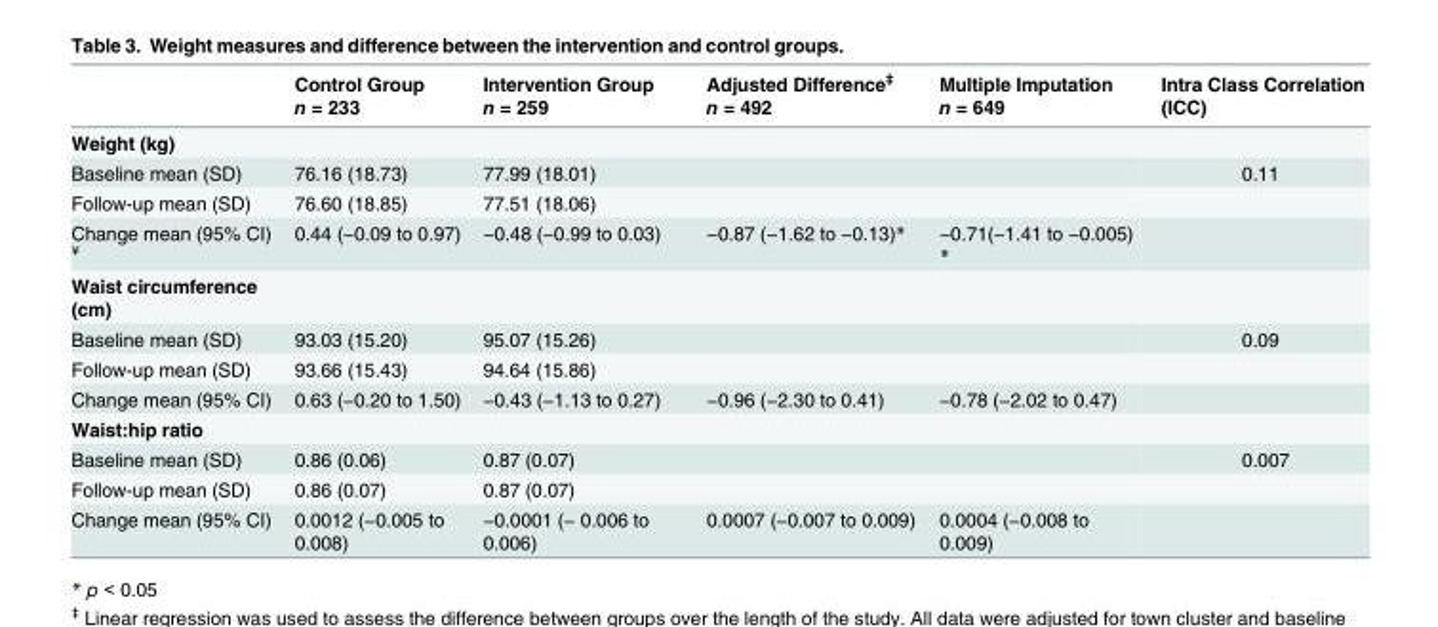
<table><thead><tr><td></td><td>Control Group n = 233</td><td>Intervention Group n = 259</td><td>Adjusted Difference<sup>‡</sup> n = 492</td><td>Multiple Imputation n = 649</td><td>Intra Class Correlation (ICC)</td></tr></thead><tbody><tr><td colspan="6">Weight (kg)</td></tr><tr><td>Baseline mean (SD)</td><td>76.16 (18.73)</td><td>77.99 (18.01)</td><td></td><td></td><td>0.11</td></tr><tr><td>Follow-up mean (SD)</td><td>76.60 (18.85)</td><td>77.51 (18.06)</td><td></td><td></td><td></td></tr><tr><td>Change mean (95% CI) <sup>¥</sup></td><td>0.44 (−0.09 to 0.97)</td><td>−0.48 (−0.99 to 0.03)</td><td>−0.87 (−1.62 to −0.13)*</td><td>−0.71(−1.41 to −0.005) *</td><td></td></tr><tr><td colspan="6">Waist circumference (cm)</td></tr><tr><td>Baseline mean (SD)</td><td>93.03 (15.20)</td><td>95.07 (15.26)</td><td></td><td></td><td>0.09</td></tr><tr><td>Follow-up mean (SD)</td><td>93.66 (15.43)</td><td>94.64 (15.86)</td><td></td><td></td><td></td></tr><tr><td>Change mean (95% CI)</td><td>0.63 (−0.20 to 1.50)</td><td>−0.43 (−1.13 to 0.27)</td><td>−0.96 (−2.30 to 0.41)</td><td>−0.78 (−2.02 to 0.47)</td><td></td></tr><tr><td colspan="6">Waist:hip ratio</td></tr><tr><td>Baseline mean (SD)</td><td>0.86 (0.06)</td><td>0.87 (0.07)</td><td></td><td></td><td>0.007</td></tr><tr><td>Follow-up mean (SD)</td><td>0.86 (0.07)</td><td>0.87 (0.07)</td><td></td><td></td><td></td></tr><tr><td>Change mean (95% CI)</td><td>0.0012 (−0.005 to 0.008)</td><td>−0.0001 (− 0.006 to 0.006)</td><td>0.0007 (−0.007 to 0.009)</td><td>0.0004 (−0.008 to 0.009)</td><td></td></tr></tbody></table>